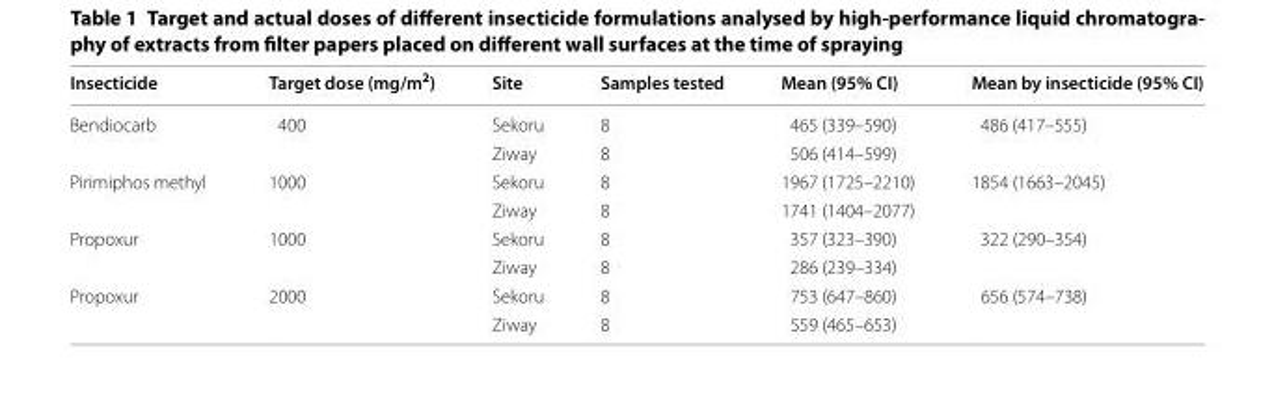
<table><thead><tr><td>Insecticide</td><td>Target dose (mg/m<sup>2</sup>)</td><td>Site</td><td>Samples tested</td><td>Mean (95% CI)</td><td>Mean by insecticide (95% CI)</td></tr></thead><tbody><tr><td rowspan="2">Bendiocarb</td><td rowspan="2">400</td><td>Sekoru</td><td>8</td><td>465 (339–590)</td><td rowspan="2">486 (417–555)</td></tr><tr><td>Ziway</td><td>8</td><td>506 (414–599)</td></tr><tr><td rowspan="2">Pirimiphos methyl</td><td rowspan="2">1000</td><td>Sekoru</td><td>8</td><td>1967 (1725–2210)</td><td rowspan="2">1854 (1663–2045)</td></tr><tr><td>Ziway</td><td>8</td><td>1741 (1404–2077)</td></tr><tr><td rowspan="2">Propoxur</td><td rowspan="2">1000</td><td>Sekoru</td><td>8</td><td>357 (323–390)</td><td rowspan="2">322 (290–354)</td></tr><tr><td>Ziway</td><td>8</td><td>286 (239–334)</td></tr><tr><td rowspan="2">Propoxur</td><td rowspan="2">2000</td><td>Sekoru</td><td>8</td><td>753 (647–860)</td><td rowspan="2">656 (574–738)</td></tr><tr><td>Ziway</td><td>8</td><td>559 (465–653)</td></tr></tbody></table>